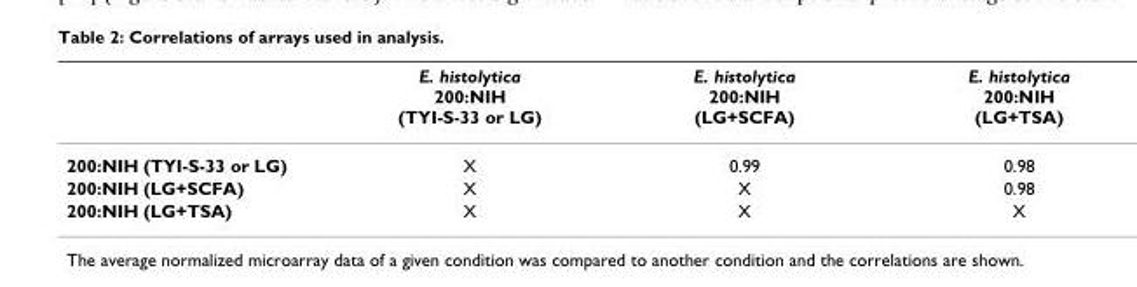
<table><thead><tr><td></td><td>E. histolytica 200:NIH (TYI-S-33 or LG)</td><td>E. histolytica 200:NIH (LG+SCFA)</td><td>E. histolytica 200:NIH (LG+TSA)</td></tr></thead><tbody><tr><td>200:NIH (TYI-S-33 or LG)</td><td>X</td><td>0.99</td><td>0.98</td></tr><tr><td>200:NIH (LG+SCFA)</td><td>X</td><td>X</td><td>0.98</td></tr><tr><td>200:NIH (LG+TSA)</td><td>X</td><td>X</td><td>X</td></tr></tbody></table>